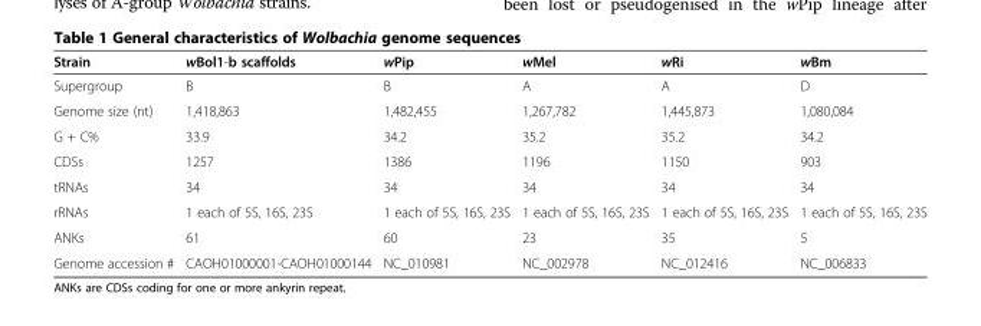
<table><thead><tr><td>Strain</td><td>wBol1-b scaffolds</td><td>wPip</td><td>wMel</td><td>wRi</td><td>wBm</td></tr></thead><tbody><tr><td>Supergroup</td><td>B</td><td>B</td><td>A</td><td>A</td><td>D</td></tr><tr><td>Genome size (nt)</td><td>1,418,863</td><td>1,482,455</td><td>1,267,782</td><td>1,445,873</td><td>1,080,084</td></tr><tr><td>G + C%</td><td>33.9</td><td>34.2</td><td>35.2</td><td>35.2</td><td>34.2</td></tr><tr><td>CDSs</td><td>1257</td><td>1386</td><td>1196</td><td>1150</td><td>903</td></tr><tr><td>tRNAs</td><td>34</td><td>34</td><td>34</td><td>34</td><td>34</td></tr><tr><td>rRNAs</td><td>1 each of 5S, 16S, 23S</td><td>1 each of 5S, 16S, 23S</td><td>1 each of 5S, 16S, 23S</td><td>1 each of 5S, 16S, 23S</td><td>1 each of 5S, 16S, 23S</td></tr><tr><td>ANKs</td><td>61</td><td>60</td><td>23</td><td>35</td><td>5</td></tr><tr><td>Genome accession #</td><td>CAOH01000001-CAOH01000144</td><td>NC_010981</td><td>NC_002978</td><td>NC_012416</td><td>NC_006833</td></tr></tbody></table>